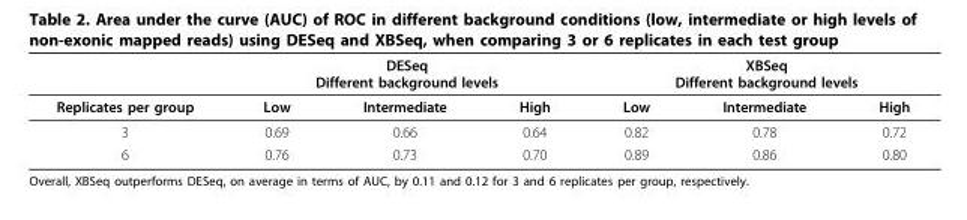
<table><thead><tr><td rowspan="2">Replicates per group</td><td colspan="3">DESeq Different background levels</td><td colspan="3">XBSeq Different background levels</td></tr><tr><td>Low</td><td>Intermediate</td><td>High</td><td>Low</td><td>Intermediate</td><td>High</td></tr></thead><tbody><tr><td>3</td><td>0.69</td><td>0.66</td><td>0.64</td><td>0.82</td><td>0.78</td><td>0.72</td></tr><tr><td>6</td><td>0.76</td><td>0.73</td><td>0.70</td><td>0.89</td><td>0.86</td><td>0.80</td></tr></tbody></table>